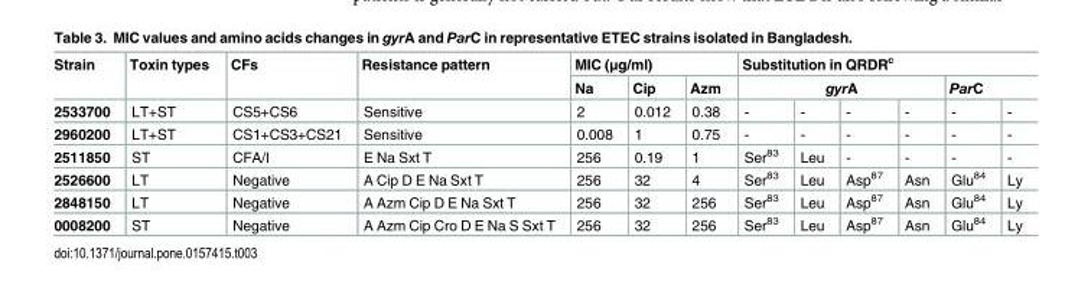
<table><thead><tr><td rowspan="3">Strain 2533700</td><td rowspan="3">Toxin types LT+ST</td><td rowspan="3">CFs CS5+CS6</td><td rowspan="3">Resistance pattern Sensitive</td><td colspan="3">MIC (μg/ml)</td><td colspan="6">Substitution in QRDR<sup>c</sup></td></tr><tr><td rowspan="2">Na 2</td><td rowspan="2">Cip 0.012</td><td rowspan="2">Azm 0.38</td><td colspan="4">gyrA</td><td colspan="2">ParC</td></tr><tr><td>-</td><td>-</td><td>-</td><td>-</td><td>-</td><td>-</td></tr></thead><tbody><tr><td>2960200</td><td>LT+ST</td><td>CS1+CS3+CS21</td><td>Sensitive</td><td>0.008</td><td>1</td><td>0.75</td><td>-</td><td>-</td><td>-</td><td>-</td><td>-</td><td>-</td></tr><tr><td>2511850</td><td>ST</td><td>CFA/I</td><td>E Na Sxt T</td><td>256</td><td>0.19</td><td>1</td><td>Ser<sup>83</sup></td><td>Leu</td><td>-</td><td>-</td><td>-</td><td>-</td></tr><tr><td>2526600</td><td>LT</td><td>Negative</td><td>A Cip D E Na Sxt T</td><td>256</td><td>32</td><td>4</td><td>Ser<sup>83</sup></td><td>Leu</td><td>Asp<sup>87</sup></td><td>Asn</td><td>Glu<sup>84</sup></td><td>Ly</td></tr><tr><td>2848150</td><td>LT</td><td>Negative</td><td>A Azm Cip D E Na Sxt T</td><td>256</td><td>32</td><td>256</td><td>Ser<sup>83</sup></td><td>Leu</td><td>Asp<sup>87</sup></td><td>Asn</td><td>Glu<sup>84</sup></td><td>Ly</td></tr><tr><td>0008200</td><td>ST</td><td>Negative</td><td>A Azm Cip Cro D E Na S Sxt T</td><td>256</td><td>32</td><td>256</td><td>Ser<sup>83</sup></td><td>Leu</td><td>Asp<sup>87</sup></td><td>Asn</td><td>Glu<sup>84</sup></td><td>Ly</td></tr></tbody></table>